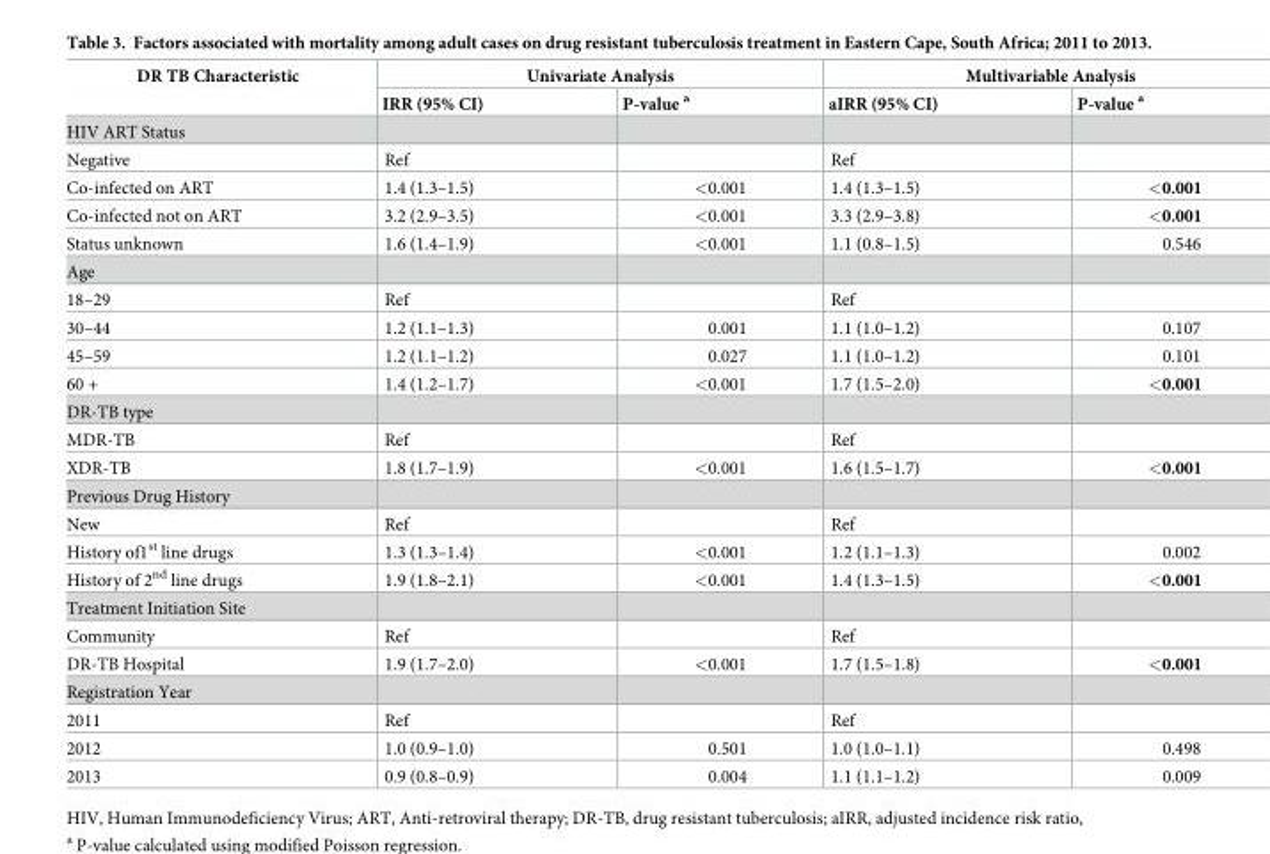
<table><thead><tr><td rowspan="2">DR TB Characteristic</td><td colspan="2">Univariate Analysis</td><td colspan="2">Multivariable Analysis</td></tr><tr><td>IRR (95% CI)</td><td>P-value <sup>a</sup></td><td>aIRR (95% CI)</td><td>P-value <sup>a</sup></td></tr></thead><tbody><tr><td colspan="5">HIV ART Status</td></tr><tr><td>Negative</td><td>Ref</td><td></td><td>Ref</td><td></td></tr><tr><td>Co-infected on ART</td><td>1.4 (1.3–1.5)</td><td>&lt;0.001</td><td>1.4 (1.3–1.5)</td><td>&lt;0.001</td></tr><tr><td>Co-infected not on ART</td><td>3.2 (2.9–3.5)</td><td>&lt;0.001</td><td>3.3 (2.9–3.8)</td><td>&lt;0.001</td></tr><tr><td>Status unknown</td><td>1.6 (1.4–1.9)</td><td>&lt;0.001</td><td>1.1 (0.8–1.5)</td><td>0.546</td></tr><tr><td colspan="5">Age</td></tr><tr><td>18–29</td><td>Ref</td><td></td><td>Ref</td><td></td></tr><tr><td>30–44</td><td>1.2 (1.1–1.3)</td><td>0.001</td><td>1.1 (1.0–1.2)</td><td>0.107</td></tr><tr><td>45–59</td><td>1.2 (1.1–1.2)</td><td>0.027</td><td>1.1 (1.0–1.2)</td><td>0.101</td></tr><tr><td>60 +</td><td>1.4 (1.2–1.7)</td><td>&lt;0.001</td><td>1.7 (1.5–2.0)</td><td>&lt;0.001</td></tr><tr><td colspan="5">DR-TB type</td></tr><tr><td>MDR-TB</td><td>Ref</td><td></td><td>Ref</td><td></td></tr><tr><td>XDR-TB</td><td>1.8 (1.7–1.9)</td><td>&lt;0.001</td><td>1.6 (1.5–1.7)</td><td>&lt;0.001</td></tr><tr><td colspan="5">Previous Drug History</td></tr><tr><td>New</td><td>Ref</td><td></td><td>Ref</td><td></td></tr><tr><td>History of1<sup>st</sup> line drugs</td><td>1.3 (1.3–1.4)</td><td>&lt;0.001</td><td>1.2 (1.1–1.3)</td><td>0.002</td></tr><tr><td>History of 2<sup>nd</sup> line drugs</td><td>1.9 (1.8–2.1)</td><td>&lt;0.001</td><td>1.4 (1.3–1.5)</td><td>&lt;0.001</td></tr><tr><td colspan="5">Treatment Initiation Site</td></tr><tr><td>Community</td><td>Ref</td><td></td><td>Ref</td><td></td></tr><tr><td>DR-TB Hospital</td><td>1.9 (1.7–2.0)</td><td>&lt;0.001</td><td>1.7 (1.5–1.8)</td><td>&lt;0.001</td></tr><tr><td colspan="5">Registration Year</td></tr><tr><td>2011</td><td>Ref</td><td></td><td>Ref</td><td></td></tr><tr><td>2012</td><td>1.0 (0.9–1.0)</td><td>0.501</td><td>1.0 (1.0–1.1)</td><td>0.498</td></tr><tr><td>2013</td><td>0.9 (0.8–0.9)</td><td>0.004</td><td>1.1 (1.1–1.2)</td><td>0.009</td></tr></tbody></table>